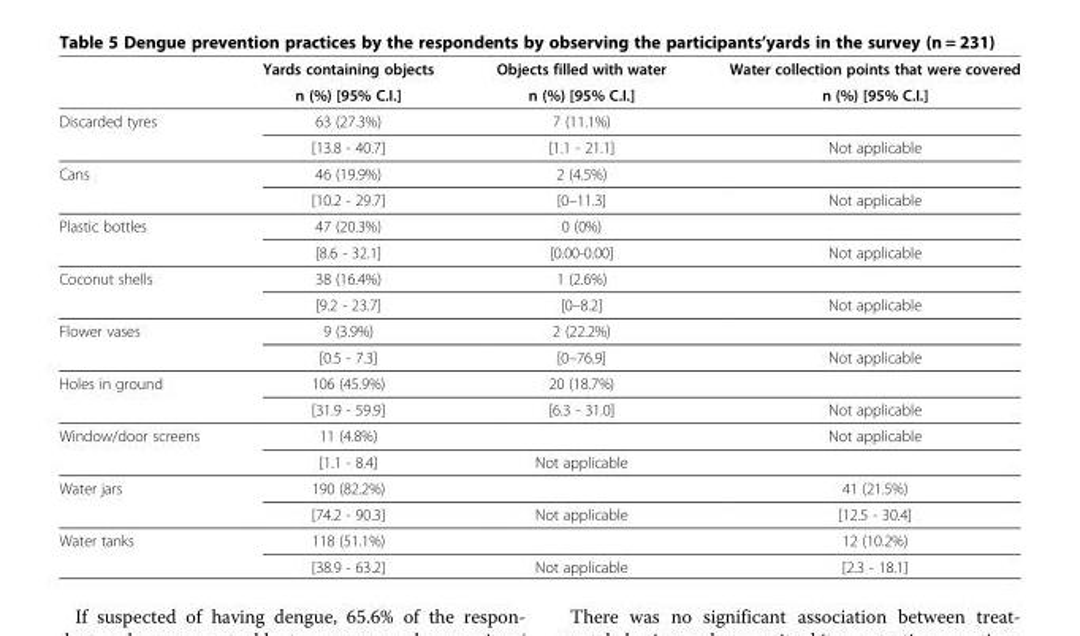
<table><thead><tr><td rowspan="2"></td><td rowspan="2">Yards containing objects n (%) [95% C.I.]</td><td rowspan="2">Objects filled with water n (%) [95% C.I.]</td><td rowspan="2">Water collection points that were covered n (%) [95% C.I.]</td></tr><tr></tr></thead><tbody><tr><td rowspan="2">Discarded tyres</td><td>63 (27.3%)</td><td>7 (11.1%)</td><td></td></tr><tr><td>[13.8 - 40.7]</td><td>[1.1 - 21.1]</td><td>Not applicable</td></tr><tr><td rowspan="2">Cans</td><td>46 (19.9%)</td><td>2 (4.5%)</td><td></td></tr><tr><td>[10.2 - 29.7]</td><td>[0–11.3]</td><td>Not applicable</td></tr><tr><td rowspan="2">Plastic bottles</td><td>47 (20.3%)</td><td>0 (0%)</td><td></td></tr><tr><td>[8.6 - 32.1]</td><td>[0.00-0.00]</td><td>Not applicable</td></tr><tr><td rowspan="2">Coconut shells</td><td>38 (16.4%)</td><td>1 (2.6%)</td><td></td></tr><tr><td>[9.2 - 23.7]</td><td>[0–8.2]</td><td>Not applicable</td></tr><tr><td rowspan="2">Flower vases</td><td>9 (3.9%)</td><td>2 (22.2%)</td><td></td></tr><tr><td>[0.5 - 7.3]</td><td>[0–76.9]</td><td>Not applicable</td></tr><tr><td rowspan="2">Holes in ground</td><td>106 (45.9%)</td><td>20 (18.7%)</td><td></td></tr><tr><td>[31.9 - 59.9]</td><td>[6.3 - 31.0]</td><td>Not applicable</td></tr><tr><td rowspan="2">Window/door screens</td><td>11 (4.8%)</td><td></td><td>Not applicable</td></tr><tr><td>[1.1 - 8.4]</td><td>Not applicable</td><td></td></tr><tr><td rowspan="2">Water jars</td><td>190 (82.2%)</td><td></td><td>41 (21.5%)</td></tr><tr><td>[74.2 - 90.3]</td><td>Not applicable</td><td>[12.5 - 30.4]</td></tr><tr><td rowspan="2">Water tanks</td><td>118 (51.1%)</td><td></td><td>12 (10.2%)</td></tr><tr><td>[38.9 - 63.2]</td><td>Not applicable</td><td>[2.3 - 18.1]</td></tr></tbody></table>